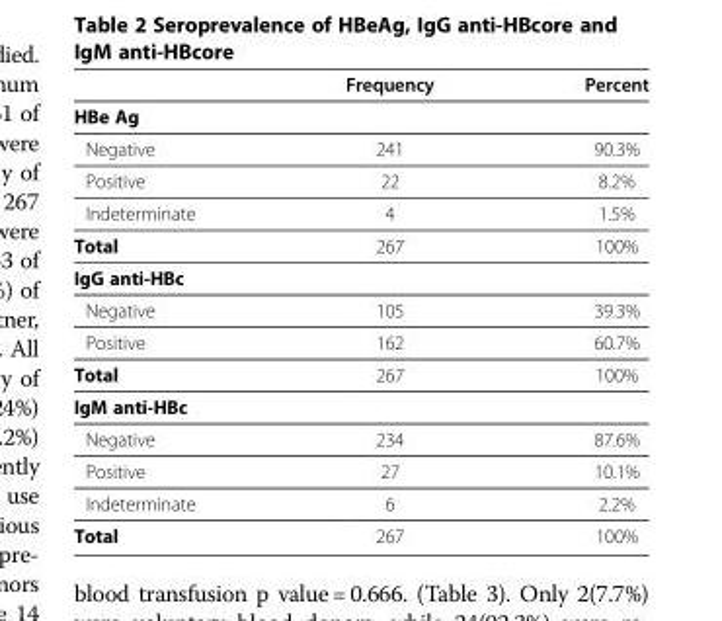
<table><thead><tr><td></td><td>Frequency</td><td>Percent</td></tr></thead><tbody><tr><td colspan="3">HBe Ag</td></tr><tr><td>Negative</td><td>241</td><td>90.3%</td></tr><tr><td>Positive</td><td>22</td><td>8.2%</td></tr><tr><td>Indeterminate</td><td>4</td><td>1.5%</td></tr><tr><td>Total</td><td>267</td><td>100%</td></tr><tr><td colspan="3">IgG anti-HBc</td></tr><tr><td>Negative</td><td>105</td><td>39.3%</td></tr><tr><td>Positive</td><td>162</td><td>60.7%</td></tr><tr><td>Total</td><td>267</td><td>100%</td></tr><tr><td colspan="3">IgM anti-HBc</td></tr><tr><td>Negative</td><td>234</td><td>87.6%</td></tr><tr><td>Positive</td><td>27</td><td>10.1%</td></tr><tr><td>Indeterminate</td><td>6</td><td>2.2%</td></tr><tr><td>Total</td><td>267</td><td>100%</td></tr></tbody></table>